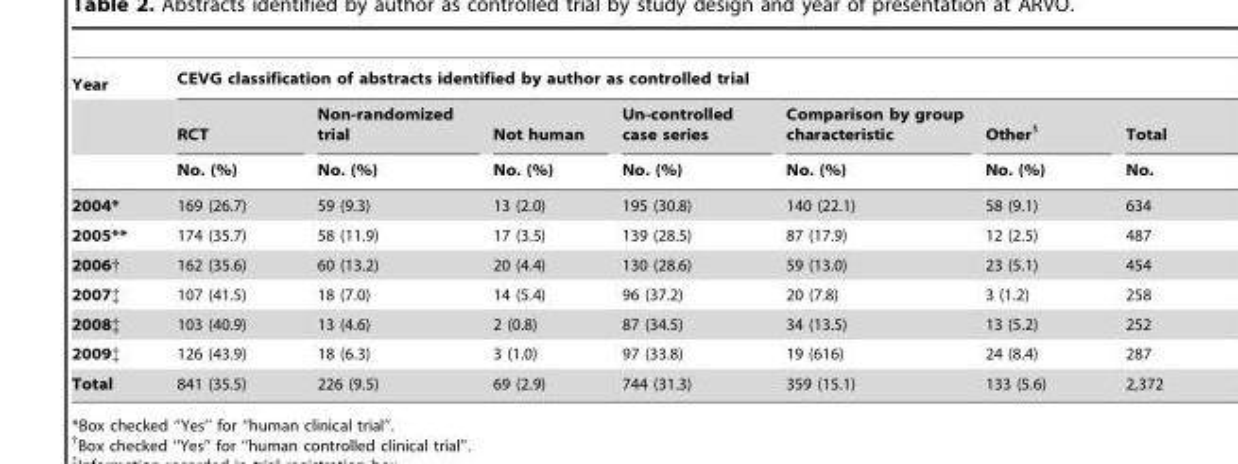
<table><thead><tr><td rowspan="3">Year</td><td colspan="7">CEVG classification of abstracts identified by author as controlled trial</td></tr><tr><td rowspan="2">RCT No. (%)</td><td rowspan="2">Non-randomized trial No. (%)</td><td rowspan="2">Not human No. (%)</td><td rowspan="2">Un-controlled case series No. (%)</td><td rowspan="2">Comparison by group characteristic No. (%)</td><td rowspan="2">Other§ No. (%)</td><td rowspan="2">Total No.</td></tr><tr></tr></thead><tbody><tr><td>2004*</td><td>169 (26.7)</td><td>59 (9.3)</td><td>13 (2.0)</td><td>195 (30.8)</td><td>140 (22.1)</td><td>58 (9.1)</td><td>634</td></tr><tr><td>2005**</td><td>174 (35.7)</td><td>58 (11.9)</td><td>17 (3.5)</td><td>139 (28.5)</td><td>87 (17.9)</td><td>12 (2.5)</td><td>487</td></tr><tr><td>2006†</td><td>162 (35.6)</td><td>60 (13.2)</td><td>20 (4.4)</td><td>130 (28.6)</td><td>59 (13.0)</td><td>23 (5.1)</td><td>454</td></tr><tr><td>2007‡</td><td>107 (41.5)</td><td>18 (7.0)</td><td>14 (5.4)</td><td>96 (37.2)</td><td>20 (7.8)</td><td>3 (1.2)</td><td>258</td></tr><tr><td>2008‡</td><td>103 (40.9)</td><td>13 (4.6)</td><td>2 (0.8)</td><td>87 (34.5)</td><td>34 (13.5)</td><td>13 (5.2)</td><td>252</td></tr><tr><td>2009‡</td><td>126 (43.9)</td><td>18 (6.3)</td><td>3 (1.0)</td><td>97 (33.8)</td><td>19 (616)</td><td>24 (8.4)</td><td>287</td></tr><tr><td>Total</td><td>841 (35.5)</td><td>226 (9.5)</td><td>69 (2.9)</td><td>744 (31.3)</td><td>359 (15.1)</td><td>133 (5.6)</td><td>2,372</td></tr></tbody></table>